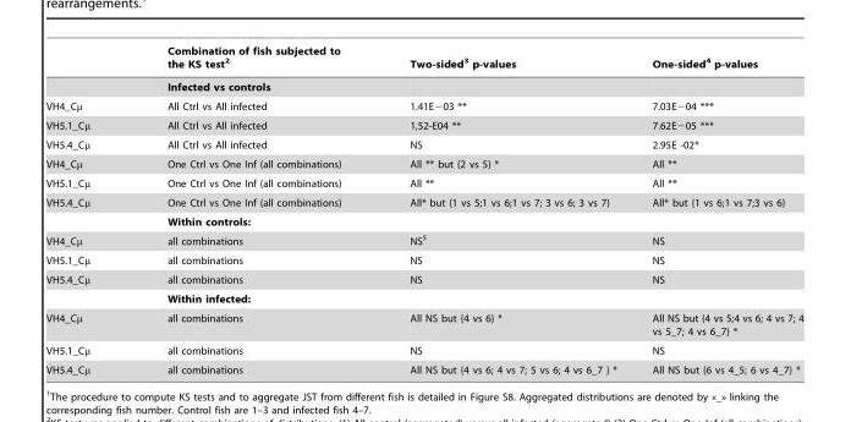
<table><thead><tr><td></td><td>Combination of fish subjected to the KS test<sup>2</sup></td><td>Two-sided<sup>3</sup> p-values</td><td>One-sided<sup>4</sup> p-values</td></tr></thead><tbody><tr><td></td><td>Infected vs controls</td><td></td><td></td></tr><tr><td>VH4_Cμ</td><td>All Ctrl vs All infected</td><td>1.41E−03 **</td><td>7.03E−04 ***</td></tr><tr><td>VH5.1_Cμ</td><td>All Ctrl vs All infected</td><td>1,52-E04 **</td><td>7.62E−05 ***</td></tr><tr><td>VH5.4_Cμ</td><td>All Ctrl vs All infected</td><td>NS</td><td>2.95E -02*</td></tr><tr><td>VH4_Cμ</td><td>One Ctrl vs One Inf (all combinations)</td><td>All ** but {2 vs 5} *</td><td>All **</td></tr><tr><td>VH5.1_Cμ</td><td>One Ctrl vs One Inf (all combinations)</td><td>All **</td><td>All **</td></tr><tr><td rowspan="2">VH5.4_Cμ</td><td>One Ctrl vs One Inf (all combinations)</td><td>All* but {1 vs 5;1 vs 6;1 vs 7; 3 vs 6; 3 vs 7}</td><td>All* but {1 vs 6;1 vs 7;3 vs 6}</td></tr><tr><td>Within controls:</td><td></td><td></td></tr><tr><td>VH4_Cμ</td><td>all combinations</td><td>NS<sup>5</sup></td><td>NS</td></tr><tr><td>VH5.1_Cμ</td><td>all combinations</td><td>NS</td><td>NS</td></tr><tr><td rowspan="2">VH5.4_Cμ</td><td>all combinations</td><td>NS</td><td>NS</td></tr><tr><td>Within infected:</td><td></td><td></td></tr><tr><td>VH4_Cμ</td><td>all combinations</td><td>All NS but {4 vs 6} *</td><td>All NS but {4 vs 5;4 vs 6; 4 vs 7; 4 vs 5_7; 4 vs 6_7} *</td></tr><tr><td>VH5.1_Cμ</td><td>all combinations</td><td>NS</td><td>NS</td></tr><tr><td>VH5.4_Cμ</td><td>all combinations</td><td>All NS but {4 vs 6; 4 vs 7; 5 vs 6; 4 vs 6_7 } *</td><td>All NS but {6 vs 4_5; 6 vs 4_7} *</td></tr></tbody></table>